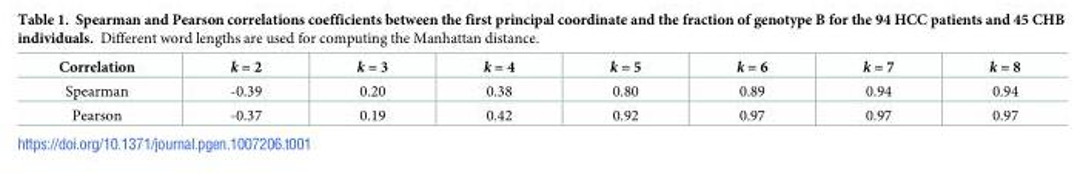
<table><thead><tr><td>Correlation</td><td>k = 2</td><td>k = 3</td><td>k = 4</td><td>k = 5</td><td>k = 6</td><td>k = 7</td><td>k = 8</td></tr></thead><tbody><tr><td>Spearman</td><td>-0.39</td><td>0.20</td><td>0.38</td><td>0.80</td><td>0.89</td><td>0.94</td><td>0.94</td></tr><tr><td>Pearson</td><td>-0.37</td><td>0.19</td><td>0.42</td><td>0.92</td><td>0.97</td><td>0.97</td><td>0.97</td></tr></tbody></table>